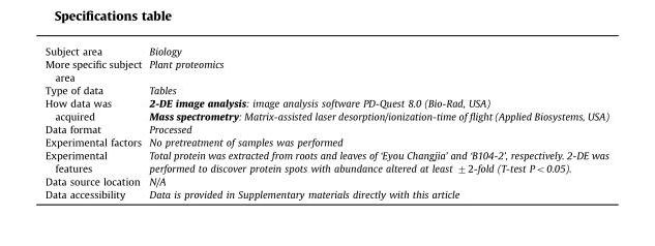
<table><tbody><tr><td>Subject area</td><td>Biology</td></tr><tr><td>More specific subject area</td><td>Plant proteomics</td></tr><tr><td>Type of data</td><td>Tables</td></tr><tr><td rowspan="2">How data was acquired</td><td>2-DE image analysis: image analysis software PD-Quest 8.0 (Bio-Rad, USA)</td></tr><tr><td>Mass spectrometry: Matrix-assisted laser desorption/ionization-time of flight (Applied Biosystems, USA)</td></tr><tr><td>Data format</td><td>Processed</td></tr><tr><td>Experimental factors</td><td>No pretreatment of samples was performed</td></tr><tr><td>Experimental features</td><td>Total protein was extracted from roots and leaves of ‘Eyou Changjia’ and ‘B104-2’, respectively. 2-DE was performed to discover protein spots with abundance altered at least ±2-fold (T-test P&lt;0.05).</td></tr><tr><td>Data source location</td><td>N/A</td></tr><tr><td>Data accessibility</td><td>Data is provided in Supplementary materials directly with this article</td></tr></tbody></table>